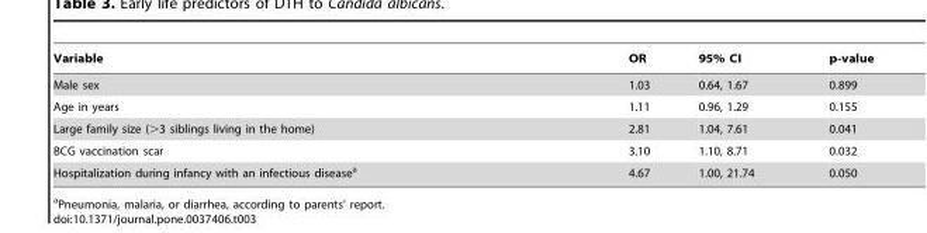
<table><thead><tr><td>Variable</td><td>OR</td><td>95% CI</td><td>p-value</td></tr></thead><tbody><tr><td>Male sex</td><td>1.03</td><td>0.64, 1.67</td><td>0.899</td></tr><tr><td>Age in years</td><td>1.11</td><td>0.96, 1.29</td><td>0.155</td></tr><tr><td>Large family size (&gt;3 siblings living in the home)</td><td>2.81</td><td>1.04, 7.61</td><td>0.041</td></tr><tr><td>BCG vaccination scar</td><td>3.10</td><td>1.10, 8.71</td><td>0.032</td></tr><tr><td>Hospitalization during infancy with an infectious disease<sup>a</sup></td><td>4.67</td><td>1.00, 21.74</td><td>0.050</td></tr></tbody></table>